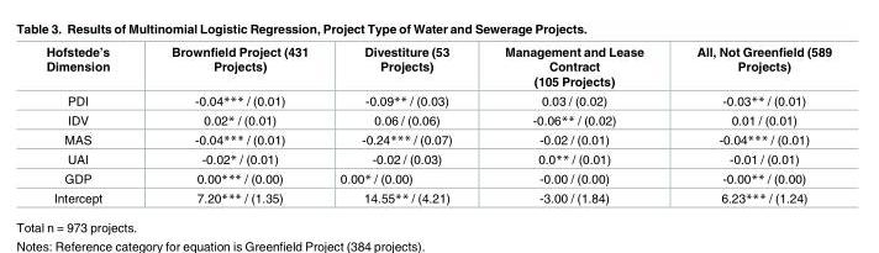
<table><thead><tr><td>Hofstede’s Dimension</td><td>Brownfield Project (431 Projects)</td><td>Divestiture (53 Projects)</td><td>Management and Lease Contract (105 Projects)</td><td>All, Not Greenfield (589 Projects)</td></tr></thead><tbody><tr><td>PDI</td><td>-0.04*** / (0.01)</td><td>-0.09** / (0.03)</td><td>0.03 / (0.02)</td><td>-0.03** / (0.01)</td></tr><tr><td>IDV</td><td>0.02* / (0.01)</td><td>0.06 / (0.06)</td><td>-0.06** / (0.02)</td><td>0.01 / (0.01)</td></tr><tr><td>MAS</td><td>-0.04*** / (0.01)</td><td>-0.24*** / (0.07)</td><td>-0.02 / (0.01)</td><td>-0.04*** / (0.01)</td></tr><tr><td>UAI</td><td>-0.02* / (0.01)</td><td>-0.02 / (0.03)</td><td>0.0** / (0.01)</td><td>-0.01 / (0.01)</td></tr><tr><td>GDP</td><td>0.00*** / (0.00)</td><td>0.00* / (0.00)</td><td>-0.00 / (0.00)</td><td>-0.00** / (0.00)</td></tr><tr><td>Intercept</td><td>7.20*** / (1.35)</td><td>14.55** / (4.21)</td><td>-3.00 / (1.84)</td><td>6.23*** / (1.24)</td></tr></tbody></table>